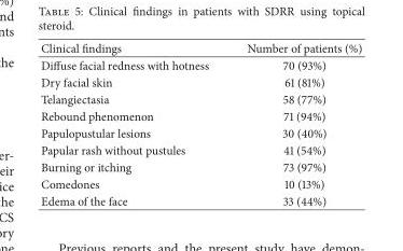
<table><thead><tr><td>Clinical findings</td><td>Number of patients (%)</td></tr></thead><tbody><tr><td>Diffuse facial redness with hotness</td><td>70 (93%)</td></tr><tr><td>Dry facial skin</td><td>61 (81%)</td></tr><tr><td>Telangiectasia</td><td>58 (77%)</td></tr><tr><td>Rebound phenomenon</td><td>71 (94%)</td></tr><tr><td>Papulopustular lesions</td><td>30 (40%)</td></tr><tr><td>Papular rash without pustules</td><td>41 (54%)</td></tr><tr><td>Burning or itching</td><td>73 (97%)</td></tr><tr><td>Comedones</td><td>10 (13%)</td></tr><tr><td>Edema of the face</td><td>33 (44%)</td></tr></tbody></table>